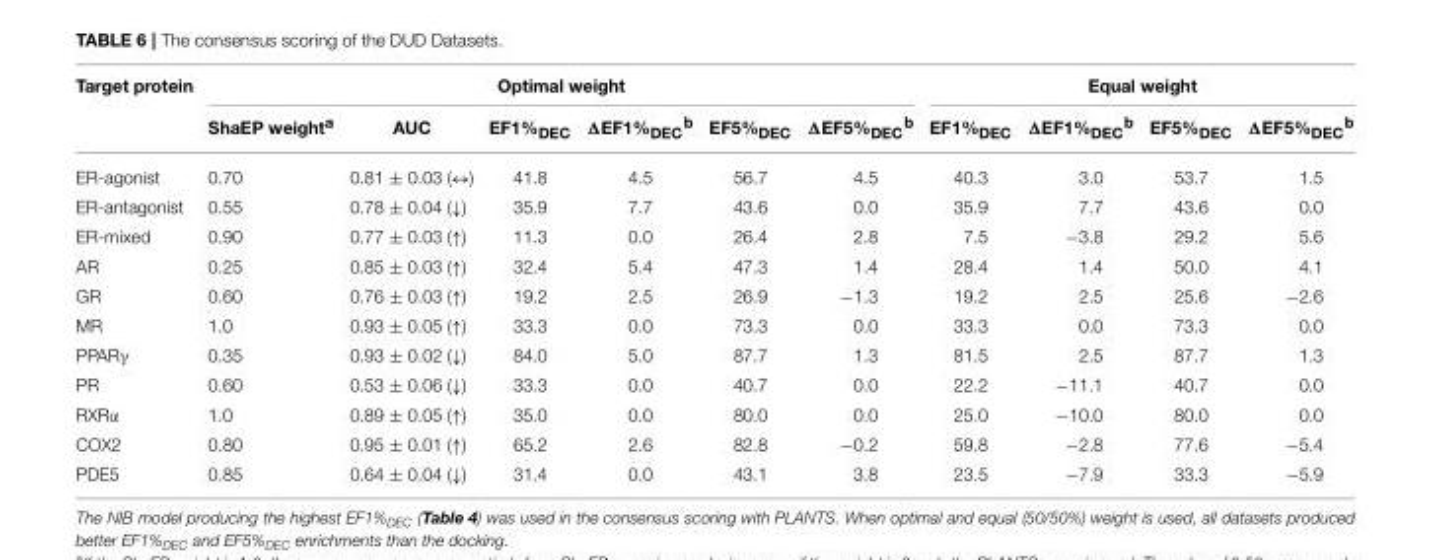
<table><thead><tr><td rowspan="2">Target protein</td><td colspan="6">Optimal weight</td><td colspan="4">Equal weight</td></tr><tr><td>ShaEP weight<sup>a</sup></td><td>AUC</td><td>EF1%<sub>DEC</sub></td><td>ΔEF1%<sub>DEC</sub><sup>b</sup></td><td>EF5%<sub>DEC</sub></td><td>ΔEF5%<sub>DEC</sub><sup>b</sup></td><td>EF1%<sub>DEC</sub></td><td>ΔEF1%<sub>DEC</sub><sup>b</sup></td><td>EF5%<sub>DEC</sub></td><td>ΔEF5%<sub>DEC</sub><sup>b</sup></td></tr></thead><tbody><tr><td>ER-agonist</td><td>0.70</td><td>0.81 ± 0.03 (↔)</td><td>41.8</td><td>4.5</td><td>56.7</td><td>4.5</td><td>40.3</td><td>3.0</td><td>53.7</td><td>1.5</td></tr><tr><td>ER-antagonist</td><td>0.55</td><td>0.78 ± 0.04 (↓)</td><td>35.9</td><td>7.7</td><td>43.6</td><td>0.0</td><td>35.9</td><td>7.7</td><td>43.6</td><td>0.0</td></tr><tr><td>ER-mixed</td><td>0.90</td><td>0.77 ± 0.03 (↑)</td><td>11.3</td><td>0.0</td><td>26.4</td><td>2.8</td><td>7.5</td><td>−3.8</td><td>29.2</td><td>5.6</td></tr><tr><td>AR</td><td>0.25</td><td>0.85 ± 0.03 (↑)</td><td>32.4</td><td>5.4</td><td>47.3</td><td>1.4</td><td>28.4</td><td>1.4</td><td>50.0</td><td>4.1</td></tr><tr><td>GR</td><td>0.60</td><td>0.76 ± 0.03 (↑)</td><td>19.2</td><td>2.5</td><td>26.9</td><td>−1.3</td><td>19.2</td><td>2.5</td><td>25.6</td><td>−2.6</td></tr><tr><td>MR</td><td>1.0</td><td>0.93 ± 0.05 (↑)</td><td>33.3</td><td>0.0</td><td>73.3</td><td>0.0</td><td>33.3</td><td>0.0</td><td>73.3</td><td>0.0</td></tr><tr><td>PPARγ</td><td>0.35</td><td>0.93 ± 0.02 (↓)</td><td>84.0</td><td>5.0</td><td>87.7</td><td>1.3</td><td>81.5</td><td>2.5</td><td>87.7</td><td>1.3</td></tr><tr><td>PR</td><td>0.60</td><td>0.53 ± 0.06 (↓)</td><td>33.3</td><td>0.0</td><td>40.7</td><td>0.0</td><td>22.2</td><td>−11.1</td><td>40.7</td><td>0.0</td></tr><tr><td>RXRα</td><td>1.0</td><td>0.89 ± 0.05 (↑)</td><td>35.0</td><td>0.0</td><td>80.0</td><td>0.0</td><td>25.0</td><td>−10.0</td><td>80.0</td><td>0.0</td></tr><tr><td>COX2</td><td>0.80</td><td>0.95 ± 0.01 (↑)</td><td>65.2</td><td>2.6</td><td>82.8</td><td>−0.2</td><td>59.8</td><td>−2.8</td><td>77.6</td><td>−5.4</td></tr><tr><td>PDE5</td><td>0.85</td><td>0.64 ± 0.04 (↓)</td><td>31.4</td><td>0.0</td><td>43.1</td><td>3.8</td><td>23.5</td><td>−7.9</td><td>33.3</td><td>−5.9</td></tr></tbody></table>